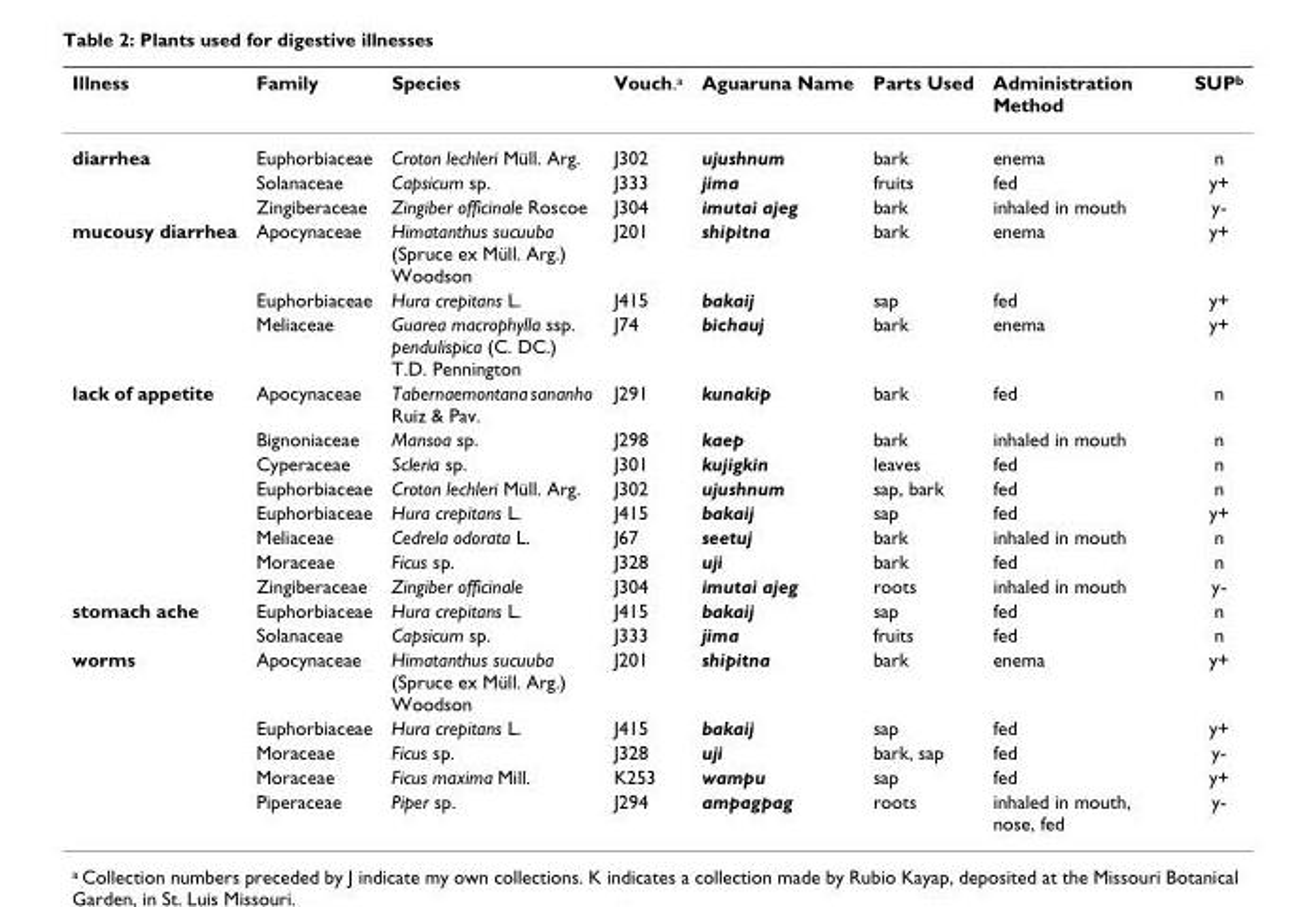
<table><thead><tr><td>Illness</td><td>Family</td><td>Species</td><td>Vouch.<sup>a</sup></td><td>Aguaruna Name</td><td>Parts Used</td><td>Administration Method</td><td>SUP<sup>b</sup></td></tr></thead><tbody><tr><td rowspan="3">diarrhea</td><td>Euphorbiaceae</td><td>Croton lechleri Müll. Arg.</td><td>J302</td><td>ujushnum</td><td>bark</td><td>enema</td><td>n</td></tr><tr><td>Solanaceae</td><td>Capsicum sp.</td><td>J333</td><td>jima</td><td>fruits</td><td>fed</td><td>y+</td></tr><tr><td>Zingiberaceae</td><td>Zingiber officinale Roscoe</td><td>J304</td><td>imutai ajeg</td><td>bark</td><td>inhaled in mouth</td><td>y-</td></tr><tr><td rowspan="3">mucousy diarrhea</td><td>Apocynaceae</td><td>Himatanthus sucuuba (Spruce ex Müll. Arg.) Woodson</td><td>J201</td><td>shipitna</td><td>bark</td><td>enema</td><td>y+</td></tr><tr><td>Euphorbiaceae</td><td>Hura crepitans L.</td><td>J415</td><td>bakaij</td><td>sap</td><td>fed</td><td>y+</td></tr><tr><td>Meliaceae</td><td>Guarea macrophylla ssp. pendulispica (C. DC.) T.D. Pennington</td><td>J74</td><td>bichauj</td><td>bark</td><td>enema</td><td>y+</td></tr><tr><td rowspan="8">lack of appetite</td><td>Apocynaceae</td><td>Tabernaemontana sananho Ruiz &amp; Pav.</td><td>J291</td><td>kunakip</td><td>bark</td><td>fed</td><td>n</td></tr><tr><td>Bignoniaceae</td><td>Mansoa sp.</td><td>J298</td><td>kaep</td><td>bark</td><td>inhaled in mouth</td><td>n</td></tr><tr><td>Cyperaceae</td><td>Scleria sp.</td><td>J301</td><td>kujigkin</td><td>leaves</td><td>fed</td><td>n</td></tr><tr><td>Euphorbiaceae</td><td>Croton lechleri Müll. Arg.</td><td>J302</td><td>ujushnum</td><td>sap, bark</td><td>fed</td><td>n</td></tr><tr><td>Euphorbiaceae</td><td>Hura crepitans L.</td><td>J415</td><td>bakaij</td><td>sap</td><td>fed</td><td>y+</td></tr><tr><td>Meliaceae</td><td>Cedrela odorata L.</td><td>J67</td><td>seetuj</td><td>bark</td><td>inhaled in mouth</td><td>n</td></tr><tr><td>Moraceae</td><td>Ficus sp.</td><td>J328</td><td>uji</td><td>bark</td><td>fed</td><td>n</td></tr><tr><td>Zingiberaceae</td><td>Zingiber officinale</td><td>J304</td><td>imutai ajeg</td><td>roots</td><td>inhaled in mouth</td><td>y-</td></tr><tr><td rowspan="2">stomach ache</td><td>Euphorbiaceae</td><td>Hura crepitans L.</td><td>J415</td><td>bakaij</td><td>sap</td><td>fed</td><td>n</td></tr><tr><td>Solanaceae</td><td>Capsicum sp.</td><td>J333</td><td>jima</td><td>fruits</td><td>fed</td><td>n</td></tr><tr><td rowspan="5">worms</td><td>Apocynaceae</td><td>Himatanthus sucuuba (Spruce ex Müll. Arg.) Woodson</td><td>J201</td><td>shipitna</td><td>bark</td><td>enema</td><td>y+</td></tr><tr><td>Euphorbiaceae</td><td>Hura crepitans L.</td><td>J415</td><td>bakaij</td><td>sap</td><td>fed</td><td>y+</td></tr><tr><td>Moraceae</td><td>Ficus sp.</td><td>J328</td><td>uji</td><td>bark, sap</td><td>fed</td><td>y-</td></tr><tr><td>Moraceae</td><td>Ficus maxima Mill.</td><td>K253</td><td>wampu</td><td>sap</td><td>fed</td><td>y+</td></tr><tr><td>Piperaceae</td><td>Piper sp.</td><td>J294</td><td>ampagpag</td><td>roots</td><td>inhaled in mouth, nose, fed</td><td>y-</td></tr></tbody></table>